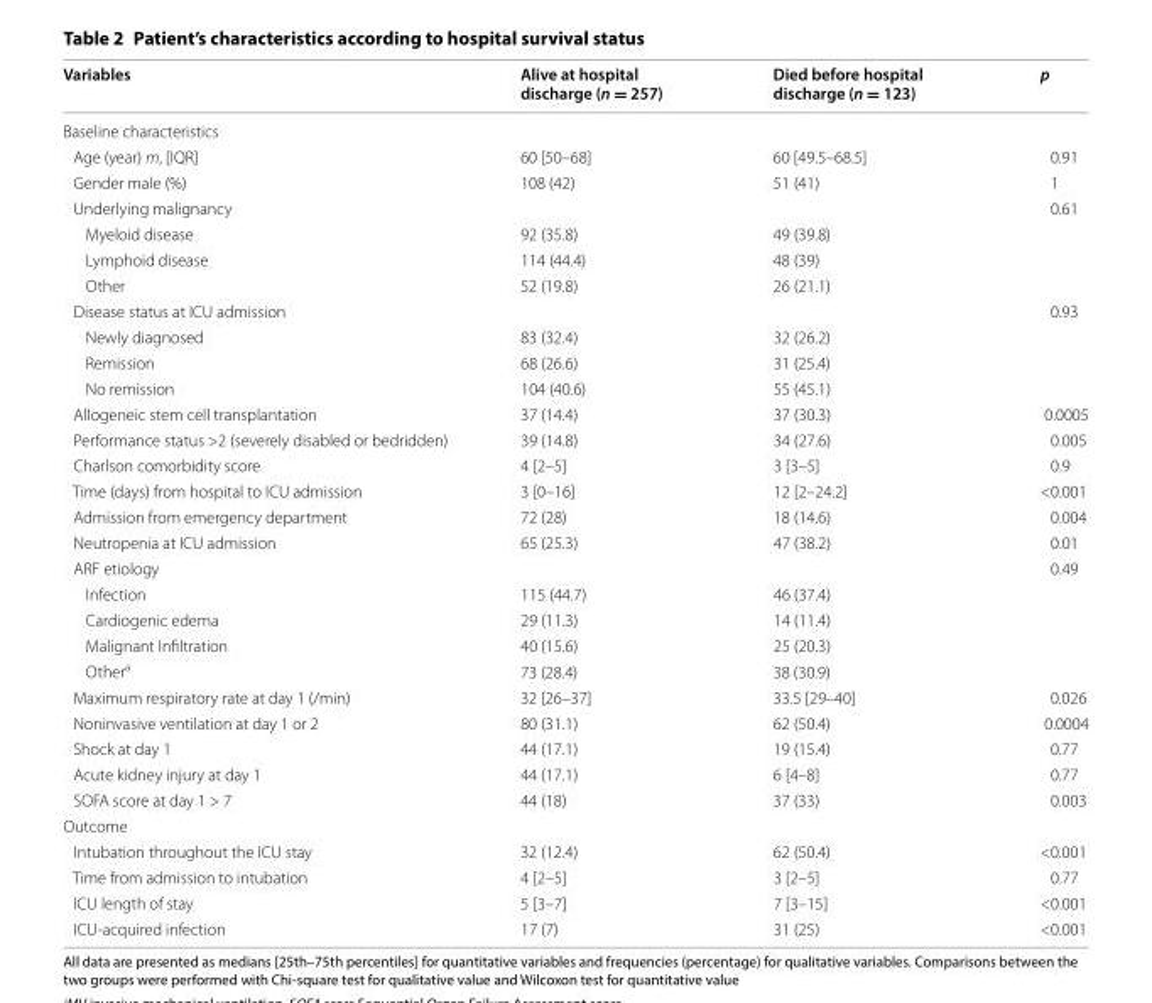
<table><thead><tr><td>Variables</td><td>Alive at hospital discharge (n = 257)</td><td>Died before hospital discharge (n = 123)</td><td>p</td></tr></thead><tbody><tr><td colspan="4">Baseline characteristics</td></tr><tr><td>Age (year) m, [IQR]</td><td>60 [50–68]</td><td>60 [49.5–68.5]</td><td>0.91</td></tr><tr><td>Gender male (%)</td><td>108 (42)</td><td>51 (41)</td><td>1</td></tr><tr><td>Underlying malignancy</td><td></td><td></td><td>0.61</td></tr><tr><td>Myeloid disease</td><td>92 (35.8)</td><td>49 (39.8)</td><td></td></tr><tr><td>Lymphoid disease</td><td>114 (44.4)</td><td>48 (39)</td><td></td></tr><tr><td>Other</td><td>52 (19.8)</td><td>26 (21.1)</td><td></td></tr><tr><td>Disease status at ICU admission</td><td></td><td></td><td>0.93</td></tr><tr><td>Newly diagnosed</td><td>83 (32.4)</td><td>32 (26.2)</td><td></td></tr><tr><td>Remission</td><td>68 (26.6)</td><td>31 (25.4)</td><td></td></tr><tr><td>No remission</td><td>104 (40.6)</td><td>55 (45.1)</td><td></td></tr><tr><td>Allogeneic stem cell transplantation</td><td>37 (14.4)</td><td>37 (30.3)</td><td>0.0005</td></tr><tr><td>Performance status &gt;2 (severely disabled or bedridden)</td><td>39 (14.8)</td><td>34 (27.6)</td><td>0.005</td></tr><tr><td>Charlson comorbidity score</td><td>4 [2–5]</td><td>3 [3–5]</td><td>0.9</td></tr><tr><td>Time (days) from hospital to ICU admission</td><td>3 [0–16]</td><td>12 [2–24.2]</td><td>&lt;0.001</td></tr><tr><td>Admission from emergency department</td><td>72 (28)</td><td>18 (14.6)</td><td>0.004</td></tr><tr><td>Neutropenia at ICU admission</td><td>65 (25.3)</td><td>47 (38.2)</td><td>0.01</td></tr><tr><td>ARF etiology</td><td></td><td></td><td>0.49</td></tr><tr><td>Infection</td><td>115 (44.7)</td><td>46 (37.4)</td><td></td></tr><tr><td>Cardiogenic edema</td><td>29 (11.3)</td><td>14 (11.4)</td><td></td></tr><tr><td>Malignant Infiltration</td><td>40 (15.6)</td><td>25 (20.3)</td><td></td></tr><tr><td>Other<sup>a</sup></td><td>73 (28.4)</td><td>38 (30.9)</td><td></td></tr><tr><td>Maximum respiratory rate at day 1 (/min)</td><td>32 [26–37]</td><td>33.5 [29–40]</td><td>0.026</td></tr><tr><td>Noninvasive ventilation at day 1 or 2</td><td>80 (31.1)</td><td>62 (50.4)</td><td>0.0004</td></tr><tr><td>Shock at day 1</td><td>44 (17.1)</td><td>19 (15.4)</td><td>0.77</td></tr><tr><td>Acute kidney injury at day 1</td><td>44 (17.1)</td><td>6 [4–8]</td><td>0.77</td></tr><tr><td>SOFA score at day 1 &gt; 7</td><td>44 (18)</td><td>37 (33)</td><td>0.003</td></tr><tr><td colspan="4">Outcome</td></tr><tr><td>Intubation throughout the ICU stay</td><td>32 (12.4)</td><td>62 (50.4)</td><td>&lt;0.001</td></tr><tr><td>Time from admission to intubation</td><td>4 [2–5]</td><td>3 [2–5]</td><td>0.77</td></tr><tr><td>ICU length of stay</td><td>5 [3–7]</td><td>7 [3–15]</td><td>&lt;0.001</td></tr><tr><td>ICU‑acquired infection</td><td>17 (7)</td><td>31 (25)</td><td>&lt;0.001</td></tr></tbody></table>